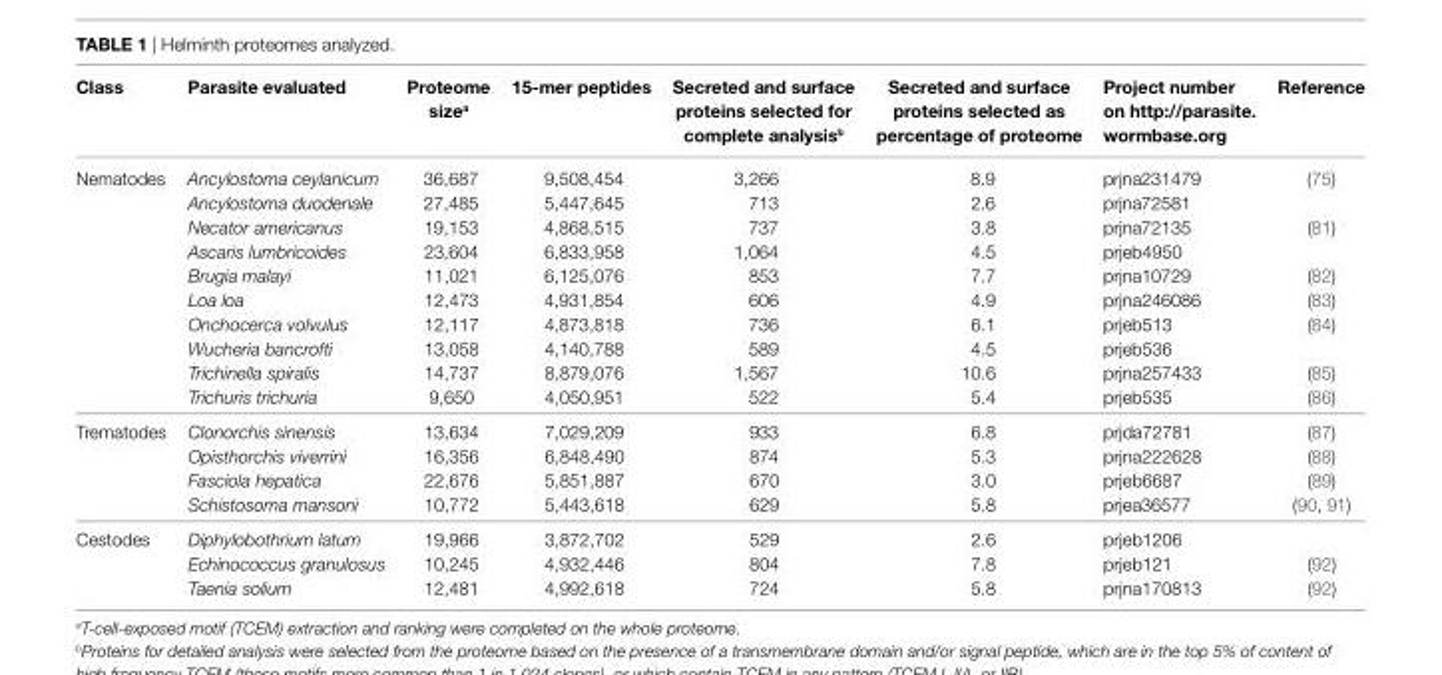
<table><thead><tr><td>class</td><td>Parasite evaluated</td><td>Proteome size<sup>a</sup></td><td>15-mer peptides</td><td>secreted and surface proteins selected for complete analysis<sup>b</sup></td><td>secreted and surface proteins selected as percentage of proteome</td><td>Project number on http://parasite. wormbase.org</td><td>reference</td></tr></thead><tbody><tr><td rowspan="10">Nematodes</td><td>Ancylostoma ceylanicum</td><td>36,687</td><td>9,508,454</td><td>3,266</td><td>8.9</td><td>prjna231479</td><td>(75)</td></tr><tr><td>Ancylostoma duodenale</td><td>27,485</td><td>5,447,645</td><td>713</td><td>2.6</td><td>prjna72581</td><td></td></tr><tr><td>Necator americanus</td><td>19,153</td><td>4,868,515</td><td>737</td><td>3.8</td><td>prjna72135</td><td>(81)</td></tr><tr><td>Ascaris lumbricoides</td><td>23,604</td><td>6,833,958</td><td>1,064</td><td>4.5</td><td>prjeb4950</td><td></td></tr><tr><td>Brugia malayi</td><td>11,021</td><td>6,125,076</td><td>853</td><td>7.7</td><td>prjna10729</td><td>(82)</td></tr><tr><td>Loa loa</td><td>12,473</td><td>4,931,854</td><td>606</td><td>4.9</td><td>prjna246086</td><td>(83)</td></tr><tr><td>Onchocerca volvulus</td><td>12,117</td><td>4,873,818</td><td>736</td><td>6.1</td><td>prjeb513</td><td>(84)</td></tr><tr><td>Wucheria bancrofti</td><td>13,058</td><td>4,140,788</td><td>589</td><td>4.5</td><td>prjeb536</td><td></td></tr><tr><td>Trichinella spiralis</td><td>14,737</td><td>8,879,076</td><td>1,567</td><td>10.6</td><td>prjna257433</td><td>(85)</td></tr><tr><td>Trichuris trichuria</td><td>9,650</td><td>4,050,951</td><td>522</td><td>5.4</td><td>prjeb535</td><td>(86)</td></tr><tr><td rowspan="4">Trematodes</td><td>Clonorchis sinensis</td><td>13,634</td><td>7,029,209</td><td>933</td><td>6.8</td><td>prjda72781</td><td>(87)</td></tr><tr><td>Opisthorchis viverrini</td><td>16,356</td><td>6,848,490</td><td>874</td><td>5.3</td><td>prjna222628</td><td>(88)</td></tr><tr><td>Fasciola hepatica</td><td>22,676</td><td>5,851,887</td><td>670</td><td>3.0</td><td>prjeb6687</td><td>(89)</td></tr><tr><td>Schistosoma mansoni</td><td>10,772</td><td>5,443,618</td><td>629</td><td>5.8</td><td>prjea36577</td><td>(90, 91)</td></tr><tr><td rowspan="3">Cestodes</td><td>Diphylobothrium latum</td><td>19,966</td><td>3,872,702</td><td>529</td><td>2.6</td><td>prjeb1206</td><td></td></tr><tr><td>Echinococcus granulosus</td><td>10,245</td><td>4,932,446</td><td>804</td><td>7.8</td><td>prjeb121</td><td>(92)</td></tr><tr><td>Taenia solium</td><td>12,481</td><td>4,992,618</td><td>724</td><td>5.8</td><td>prjna170813</td><td>(92)</td></tr></tbody></table>